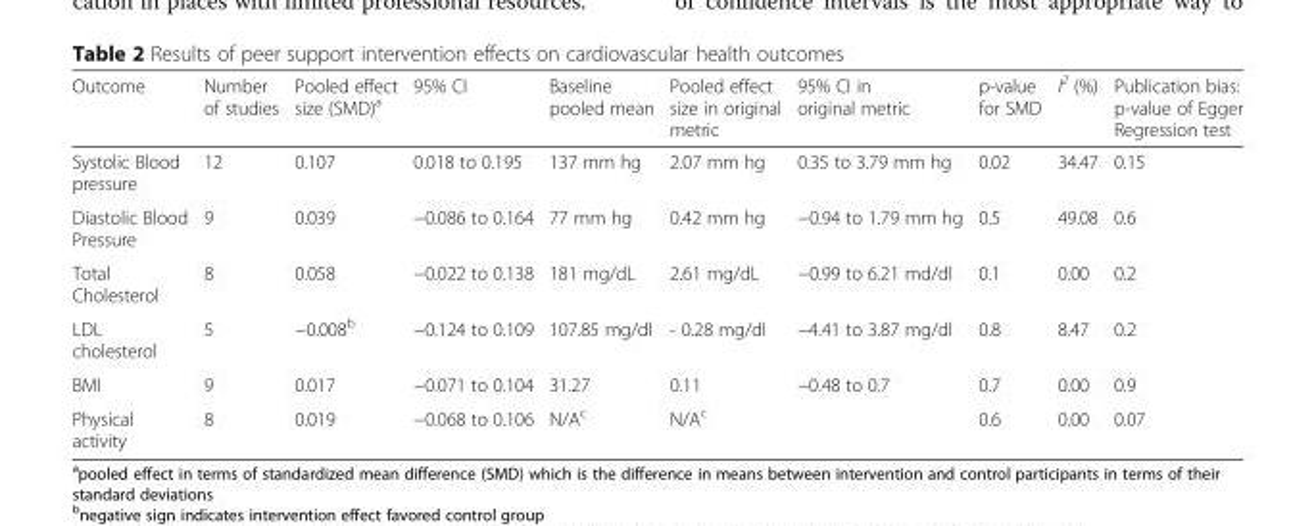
<table><thead><tr><td>Outcome</td><td>Number of studies</td><td>Pooled effect size (SMD)<sup>a</sup></td><td>95% CI</td><td>Baseline pooled mean</td><td>Pooled effect size in original metric</td><td>95% CI in original metric</td><td>p-value for SMD</td><td>I<sup>2</sup> (%)</td><td>Publication bias: p-value of Egger Regression test</td></tr></thead><tbody><tr><td>Systolic Blood pressure</td><td>12</td><td>0.107</td><td>0.018 to 0.195</td><td>137 mm hg</td><td>2.07 mm hg</td><td>0.35 to 3.79 mm hg</td><td>0.02</td><td>34.47</td><td>0.15</td></tr><tr><td>Diastolic Blood Pressure</td><td>9</td><td>0.039</td><td>−0.086 to 0.164</td><td>77 mm hg</td><td>0.42 mm hg</td><td>−0.94 to 1.79 mm hg</td><td>0.5</td><td>49.08</td><td>0.6</td></tr><tr><td>Total Cholesterol</td><td>8</td><td>0.058</td><td>−0.022 to 0.138</td><td>181 mg/dL</td><td>2.61 mg/dL</td><td>−0.99 to 6.21 md/dl</td><td>0.1</td><td>0.00</td><td>0.2</td></tr><tr><td>LDL cholesterol</td><td>5</td><td>−0.008<sup>b</sup></td><td>−0.124 to 0.109</td><td>107.85 mg/dl</td><td>- 0.28 mg/dl</td><td>−4.41 to 3.87 mg/dl</td><td>0.8</td><td>8.47</td><td>0.2</td></tr><tr><td>BMI</td><td>9</td><td>0.017</td><td>−0.071 to 0.104</td><td>31.27</td><td>0.11</td><td>−0.48 to 0.7</td><td>0.7</td><td>0.00</td><td>0.9</td></tr><tr><td>Physical activity</td><td>8</td><td>0.019</td><td>−0.068 to 0.106</td><td>N/A<sup>c</sup></td><td>N/A<sup>c</sup></td><td></td><td>0.6</td><td>0.00</td><td>0.07</td></tr></tbody></table>